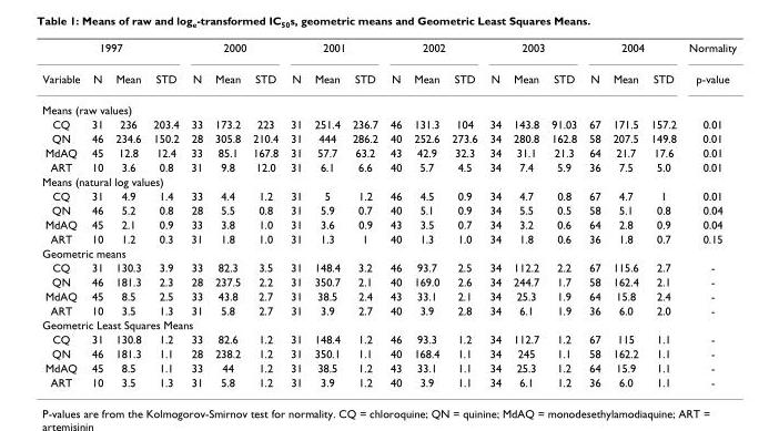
<table><tbody><tr><td colspan="4">1997</td><td colspan="3">2000</td><td colspan="3">2001</td><td colspan="3">2002</td><td colspan="3">2003</td><td colspan="3">2004</td><td>Normality</td></tr><tr><td>Variable</td><td>N</td><td>Mean</td><td>STD</td><td>N</td><td>Mean</td><td>STD</td><td>N</td><td>Mean</td><td>STD</td><td>N</td><td>Mean</td><td>STD</td><td>N</td><td>Mean</td><td>STD</td><td>N</td><td>Mean</td><td>STD</td><td>p-value</td></tr><tr><td colspan="20">Means (raw values)</td></tr><tr><td>CQ</td><td>31</td><td>236</td><td>203.4</td><td>33</td><td>173.2</td><td>223</td><td>31</td><td>251.4</td><td>236.7</td><td>46</td><td>131.3</td><td>104</td><td>34</td><td>143.8</td><td>91.03</td><td>67</td><td>171.5</td><td>157.2</td><td>0.01</td></tr><tr><td>QN</td><td>46</td><td>234.6</td><td>150.2</td><td>28</td><td>305.8</td><td>210.4</td><td>31</td><td>444</td><td>286.2</td><td>40</td><td>252.6</td><td>273.6</td><td>34</td><td>280.8</td><td>162.8</td><td>58</td><td>207.5</td><td>149.8</td><td>0.01</td></tr><tr><td>MdAQ</td><td>45</td><td>12.8</td><td>12.4</td><td>33</td><td>85.1</td><td>167.8</td><td>31</td><td>57.7</td><td>63.2</td><td>43</td><td>42.9</td><td>32.3</td><td>34</td><td>31.1</td><td>21.3</td><td>64</td><td>21.7</td><td>17.6</td><td>0.01</td></tr><tr><td>ART</td><td>10</td><td>3.6</td><td>0.8</td><td>31</td><td>9.8</td><td>12.0</td><td>31</td><td>6.1</td><td>6.6</td><td>40</td><td>5.7</td><td>4.5</td><td>34</td><td>7.4</td><td>5.9</td><td>36</td><td>7.5</td><td>5.0</td><td>0.01</td></tr><tr><td colspan="20">Means (natural log values)</td></tr><tr><td>CQ</td><td>31</td><td>4.9</td><td>1.4</td><td>33</td><td>4.4</td><td>1.2</td><td>31</td><td>5</td><td>1.2</td><td>46</td><td>4.5</td><td>0.9</td><td>34</td><td>4.7</td><td>0.8</td><td>67</td><td>4.7</td><td>1</td><td>0.01</td></tr><tr><td>QN</td><td>46</td><td>5.2</td><td>0.8</td><td>28</td><td>5.5</td><td>0.8</td><td>31</td><td>5.9</td><td>0.7</td><td>40</td><td>5.1</td><td>0.9</td><td>34</td><td>5.5</td><td>0.5</td><td>58</td><td>5.1</td><td>0.8</td><td>0.04</td></tr><tr><td>MdAQ</td><td>45</td><td>2.1</td><td>0.9</td><td>33</td><td>3.8</td><td>1.0</td><td>31</td><td>3.6</td><td>0.9</td><td>43</td><td>3.5</td><td>0.7</td><td>34</td><td>3.2</td><td>0.6</td><td>64</td><td>2.8</td><td>0.9</td><td>0.04</td></tr><tr><td>ART</td><td>10</td><td>1.2</td><td>0.3</td><td>31</td><td>1.8</td><td>1.0</td><td>31</td><td>1.3</td><td>1</td><td>40</td><td>1.3</td><td>1.0</td><td>34</td><td>1.8</td><td>0.6</td><td>36</td><td>1.8</td><td>0.7</td><td>0.15</td></tr><tr><td colspan="20">Geometric means</td></tr><tr><td>CQ</td><td>31</td><td>130.3</td><td>3.9</td><td>33</td><td>82.3</td><td>3.5</td><td>31</td><td>148.4</td><td>3.2</td><td>46</td><td>93.7</td><td>2.5</td><td>34</td><td>112.2</td><td>2.2</td><td>67</td><td>115.6</td><td>2.7</td><td>-</td></tr><tr><td>QN</td><td>46</td><td>181.3</td><td>2.3</td><td>28</td><td>237.5</td><td>2.2</td><td>31</td><td>350.7</td><td>2.1</td><td>40</td><td>169.0</td><td>2.6</td><td>34</td><td>244.7</td><td>1.7</td><td>58</td><td>162.4</td><td>2.1</td><td>-</td></tr><tr><td>MdAQ</td><td>45</td><td>8.5</td><td>2.5</td><td>33</td><td>43.8</td><td>2.7</td><td>31</td><td>38.5</td><td>2.4</td><td>43</td><td>33.1</td><td>2.1</td><td>34</td><td>25.3</td><td>1.9</td><td>64</td><td>15.8</td><td>2.4</td><td>-</td></tr><tr><td>ART</td><td>10</td><td>3.5</td><td>1.3</td><td>31</td><td>5.8</td><td>2.7</td><td>31</td><td>3.9</td><td>2.7</td><td>40</td><td>3.9</td><td>2.8</td><td>34</td><td>6.1</td><td>1.9</td><td>36</td><td>6.0</td><td>2.0</td><td>-</td></tr><tr><td colspan="20">Geometric Least Squares Means</td></tr><tr><td>CQ</td><td>31</td><td>130.8</td><td>1.2</td><td>33</td><td>82.6</td><td>1.2</td><td>31</td><td>148.4</td><td>1.2</td><td>46</td><td>93.3</td><td>1.2</td><td>34</td><td>112.7</td><td>1.2</td><td>67</td><td>115</td><td>1.1</td><td>-</td></tr><tr><td>QN</td><td>46</td><td>181.3</td><td>1.1</td><td>28</td><td>238.2</td><td>1.2</td><td>31</td><td>350.1</td><td>1.1</td><td>40</td><td>168.4</td><td>1.1</td><td>34</td><td>245</td><td>1.1</td><td>58</td><td>162.2</td><td>1.1</td><td>-</td></tr><tr><td>MdAQ</td><td>45</td><td>8.5</td><td>1.1</td><td>33</td><td>44</td><td>1.2</td><td>31</td><td>38.5</td><td>1.2</td><td>43</td><td>33.1</td><td>1.1</td><td>34</td><td>25.3</td><td>1.2</td><td>64</td><td>15.9</td><td>1.1</td><td>-</td></tr><tr><td>ART</td><td>10</td><td>3.5</td><td>1.3</td><td>31</td><td>5.8</td><td>1.2</td><td>31</td><td>3.9</td><td>1.2</td><td>40</td><td>3.9</td><td>1.1</td><td>34</td><td>6.1</td><td>1.2</td><td>36</td><td>6.0</td><td>1.1</td><td>-</td></tr></tbody></table>